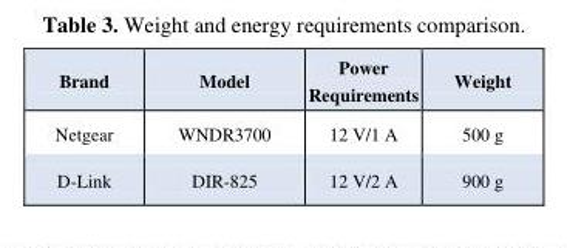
<table><thead><tr><td>Brand</td><td>Model</td><td>Power Requirements</td><td>Weight</td></tr></thead><tbody><tr><td>Netgear</td><td>WNDR3700</td><td>12 V/1 A</td><td>500 g</td></tr><tr><td>D-Link</td><td>DIR-825</td><td>12 V/2 A</td><td>900 g</td></tr></tbody></table>